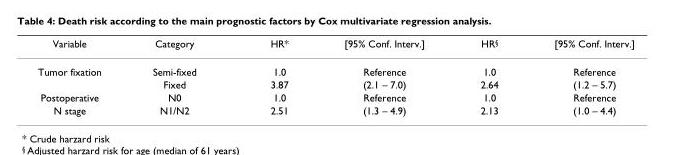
<table><thead><tr><td>Variable</td><td>Category</td><td>HR*</td><td>[95% Conf. Interv.]</td><td>HR<sup>§</sup></td><td>[95% Conf. Interv.]</td></tr></thead><tbody><tr><td rowspan="2">Tumor fixation</td><td>Semi-fixed</td><td>1.0</td><td>Reference</td><td>1.0</td><td>Reference</td></tr><tr><td>Fixed</td><td>3.87</td><td>(2.1 – 7.0)</td><td>2.64</td><td>(1.2 – 5.7)</td></tr><tr><td>Postoperative</td><td>N0</td><td>1.0</td><td>Reference</td><td>1.0</td><td>Reference</td></tr><tr><td>N stage</td><td>N1/N2</td><td>2.51</td><td>(1.3 – 4.9)</td><td>2.13</td><td>(1.0 – 4.4)</td></tr></tbody></table>